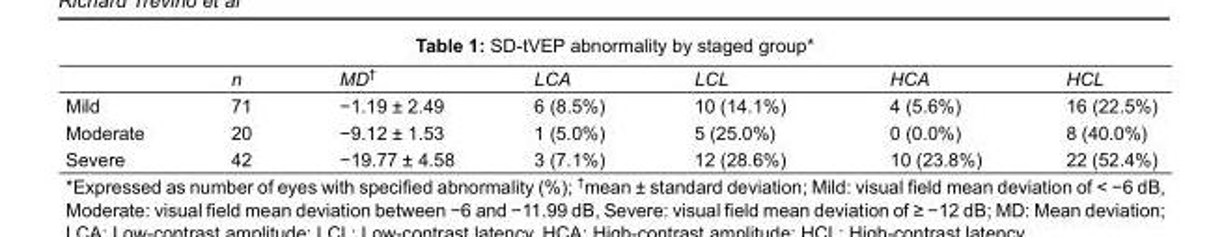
<table><thead><tr><td></td><td>n</td><td>MD<sup>†</sup></td><td>LCA</td><td>LCL</td><td>HCA</td><td>HCL</td></tr></thead><tbody><tr><td>Mild</td><td>71</td><td>−1.19 ± 2.49</td><td>6 (8.5%)</td><td>10 (14.1%)</td><td>4 (5.6%)</td><td>16 (22.5%)</td></tr><tr><td>Moderate</td><td>20</td><td>−9.12 ± 1.53</td><td>1 (5.0%)</td><td>5 (25.0%)</td><td>0 (0.0%)</td><td>8 (40.0%)</td></tr><tr><td>Severe</td><td>42</td><td>−19.77 ± 4.58</td><td>3 (7.1%)</td><td>12 (28.6%)</td><td>10 (23.8%)</td><td>22 (52.4%)</td></tr></tbody></table>